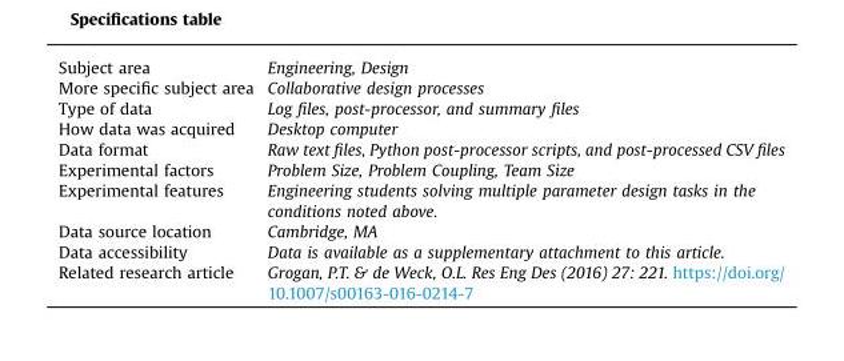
<table><thead><tr><td>Subject area</td><td>Engineering, Design</td></tr></thead><tbody><tr><td>More specific subject area</td><td>Collaborative design processes</td></tr><tr><td>Type of data</td><td>Log files, post-processor, and summary files</td></tr><tr><td>How data was acquired</td><td>Desktop computer</td></tr><tr><td>Data format</td><td>Raw text files, Python post-processor scripts, and post-processed CSV files</td></tr><tr><td>Experimental factors</td><td>Problem Size, Problem Coupling, Team Size</td></tr><tr><td>Experimental features</td><td>Engineering students solving multiple parameter design tasks in the conditions noted above.</td></tr><tr><td>Data source location</td><td>Cambridge, MA</td></tr><tr><td>Data accessibility</td><td>Data is available as a supplementary attachment to this article.</td></tr><tr><td>Related research article</td><td>Grogan, P.T. &amp; de Weck, O.L. Res Eng Des (2016) 27: 221. https://doi.org/ 10.1007/s00163-016-0214-7</td></tr></tbody></table>